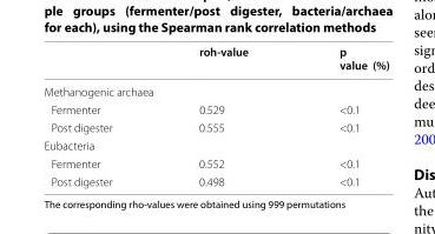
<table><thead><tr><td></td><td>roh‑value</td><td>p value (%)</td></tr></thead><tbody><tr><td colspan="3">Methanogenic archaea</td></tr><tr><td>Fermenter</td><td>0.529</td><td>&lt;0.1</td></tr><tr><td>Post digester</td><td>0.555</td><td>&lt;0.1</td></tr><tr><td colspan="3">Eubacteria</td></tr><tr><td>Fermenter</td><td>0.552</td><td>&lt;0.1</td></tr><tr><td>Post digester</td><td>0.498</td><td>&lt;0.1</td></tr></tbody></table>